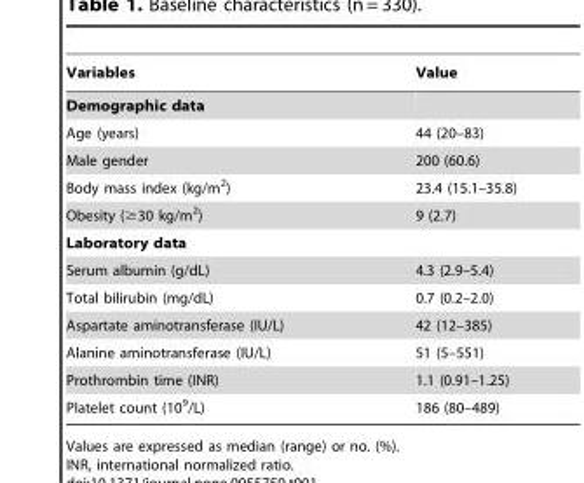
<table><thead><tr><td>Variables</td><td>Value</td></tr></thead><tbody><tr><td colspan="2">Demographic data</td></tr><tr><td>Age (years)</td><td>44 (20–83)</td></tr><tr><td>Male gender</td><td>200 (60.6)</td></tr><tr><td>Body mass index (kg/m<sup>2</sup>)</td><td>23.4 (15.1–35.8)</td></tr><tr><td>Obesity (≥30 kg/m<sup>2</sup>)</td><td>9 (2.7)</td></tr><tr><td colspan="2">Laboratory data</td></tr><tr><td>Serum albumin (g/dL)</td><td>4.3 (2.9–5.4)</td></tr><tr><td>Total bilirubin (mg/dL)</td><td>0.7 (0.2–2.0)</td></tr><tr><td>Aspartate aminotransferase (IU/L)</td><td>42 (12–385)</td></tr><tr><td>Alanine aminotransferase (IU/L)</td><td>51 (5–551)</td></tr><tr><td>Prothrombin time (INR)</td><td>1.1 (0.91–1.25)</td></tr><tr><td>Platelet count (10<sup>9</sup>/L)</td><td>186 (80–489)</td></tr></tbody></table>